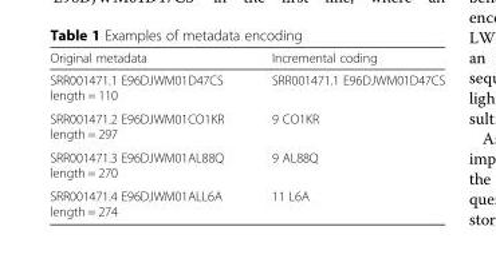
<table><thead><tr><td>Original metadata</td><td>Incremental coding</td></tr></thead><tbody><tr><td>SRR001471.1 E96DJWM01D47CS length = 110</td><td>SRR001471.1 E96DJWM01D47CS</td></tr><tr><td>SRR001471.2 E96DJWM01CO1KR length = 297</td><td>9 CO1KR</td></tr><tr><td>SRR001471.3 E96DJWM01AL88Q length = 270</td><td>9 AL88Q</td></tr><tr><td>SRR001471.4 E96DJWM01ALL6A length = 274</td><td>11 L6A</td></tr></tbody></table>